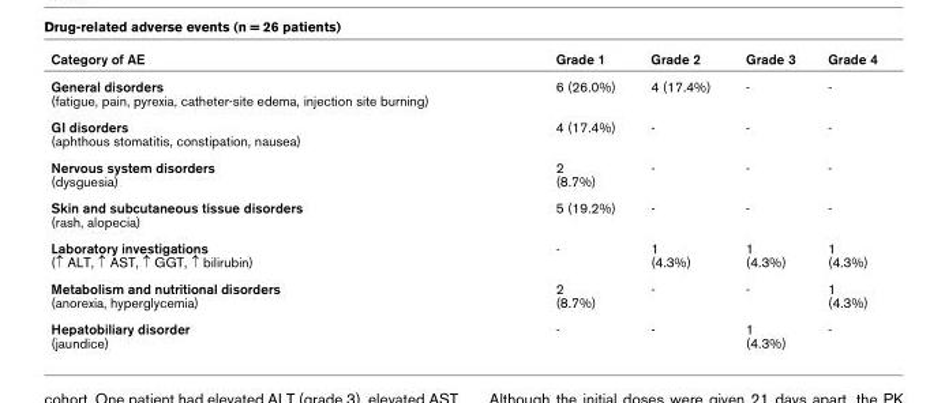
<table><thead><tr><td>Category of AE</td><td>Grade 1</td><td>Grade 2</td><td>Grade 3</td><td>Grade 4</td></tr></thead><tbody><tr><td>General disorders (fatigue, pain, pyrexia, catheter-site edema, injection site burning)</td><td>6 (26.0%)</td><td>4 (17.4%)</td><td>-</td><td>-</td></tr><tr><td>GI disorders (aphthous stomatitis, constipation, nausea)</td><td>4 (17.4%)</td><td>-</td><td>-</td><td>-</td></tr><tr><td>Nervous system disorders (dysguesia)</td><td>2 (8.7%)</td><td>-</td><td>-</td><td>-</td></tr><tr><td>Skin and subcutaneous tissue disorders (rash, alopecia)</td><td>5 (19.2%)</td><td>-</td><td>-</td><td>-</td></tr><tr><td>Laboratory investigations (↑ ALT, ↑ AST, ↑ GGT, ↑ bilirubin)</td><td>-</td><td>1 (4.3%)</td><td>1 (4.3%)</td><td>1 (4.3%)</td></tr><tr><td>Metabolism and nutritional disorders (anorexia, hyperglycemia)</td><td>2 (8.7%)</td><td>-</td><td>-</td><td>1 (4.3%)</td></tr><tr><td>Hepatobiliary disorder (jaundice)</td><td>-</td><td>-</td><td>1 (4.3%)</td><td>-</td></tr></tbody></table>